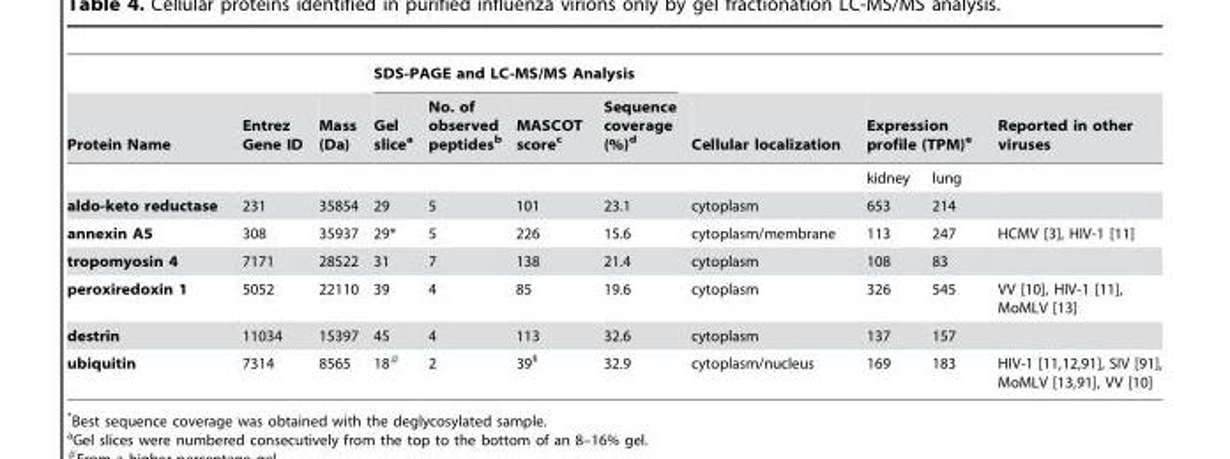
<table><thead><tr><td rowspan="2">Protein Name</td><td rowspan="2">Entrez Gene ID</td><td rowspan="2">Mass (Da)</td><td colspan="4">SDS-PAGE and LC-MS/MS Analysis</td><td rowspan="2">Cellular localization</td><td></td><td></td><td rowspan="2">Reported in other viruses</td></tr><tr><td>Gel slice<sup>a</sup></td><td>No. of observed peptides<sup>b</sup></td><td>MASCOT score<sup>c</sup></td><td>Sequence coverage (%)<sup>d</sup></td><td colspan="2">Expression profile (TPM)<sup>e</sup></td></tr></thead><tbody><tr><td></td><td></td><td></td><td></td><td></td><td></td><td></td><td></td><td>kidney</td><td>lung</td><td></td></tr><tr><td>aldo-keto reductase</td><td>231</td><td>35854</td><td>29</td><td>5</td><td>101</td><td>23.1</td><td>cytoplasm</td><td>653</td><td>214</td><td></td></tr><tr><td>annexin A5</td><td>308</td><td>35937</td><td>29*</td><td>5</td><td>226</td><td>15.6</td><td>cytoplasm/membrane</td><td>113</td><td>247</td><td>HCMV [3], HIV-1 [11]</td></tr><tr><td>tropomyosin 4</td><td>7171</td><td>28522</td><td>31</td><td>7</td><td>138</td><td>21.4</td><td>cytoplasm</td><td>108</td><td>83</td><td></td></tr><tr><td>peroxiredoxin 1</td><td>5052</td><td>22110</td><td>39</td><td>4</td><td>85</td><td>19.6</td><td>cytoplasm</td><td>326</td><td>545</td><td>VV [10], HIV-1 [11], MoMLV [13]</td></tr><tr><td>destrin</td><td>11034</td><td>15397</td><td>45</td><td>4</td><td>113</td><td>32.6</td><td>cytoplasm</td><td>137</td><td>157</td><td></td></tr><tr><td>ubiquitin</td><td>7314</td><td>8565</td><td>18#</td><td>2</td><td>39§</td><td>32.9</td><td>cytoplasm/nucleus</td><td>169</td><td>183</td><td>HIV-1 [11,12,91], SIV [91], MoMLV [13,91], VV [10]</td></tr></tbody></table>